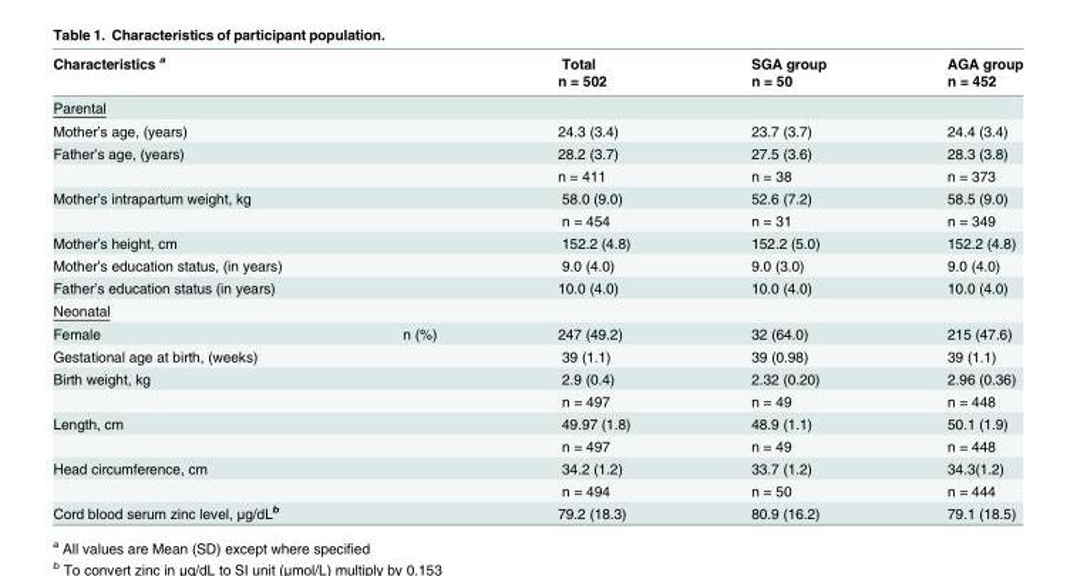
<table><thead><tr><td rowspan="2">Characteristics <sup>a</sup></td><td rowspan="2"></td><td rowspan="2">Total n = 502</td><td rowspan="2">SGA group n = 50</td><td rowspan="2">AGA group n = 452</td></tr><tr></tr></thead><tbody><tr><td colspan="5">Parental</td></tr><tr><td>Mother’s age, (years)</td><td></td><td>24.3 (3.4)</td><td>23.7 (3.7)</td><td>24.4 (3.4)</td></tr><tr><td rowspan="2">Father’s age, (years)</td><td></td><td>28.2 (3.7)</td><td>27.5 (3.6)</td><td>28.3 (3.8)</td></tr><tr><td></td><td>n = 411</td><td>n = 38</td><td>n = 373</td></tr><tr><td rowspan="2">Mother’s intrapartum weight, kg</td><td></td><td>58.0 (9.0)</td><td>52.6 (7.2)</td><td>58.5 (9.0)</td></tr><tr><td></td><td>n = 454</td><td>n = 31</td><td>n = 349</td></tr><tr><td>Mother’s height, cm</td><td></td><td>152.2 (4.8)</td><td>152.2 (5.0)</td><td>152.2 (4.8)</td></tr><tr><td>Mother’s education status, (in years)</td><td></td><td>9.0 (4.0)</td><td>9.0 (3.0)</td><td>9.0 (4.0)</td></tr><tr><td>Father’s education status (in years)</td><td></td><td>10.0 (4.0)</td><td>10.0 (4.0)</td><td>10.0 (4.0)</td></tr><tr><td colspan="5">Neonatal</td></tr><tr><td>Female</td><td>n (%)</td><td>247 (49.2)</td><td>32 (64.0)</td><td>215 (47.6)</td></tr><tr><td>Gestational age at birth, (weeks)</td><td></td><td>39 (1.1)</td><td>39 (0.98)</td><td>39 (1.1)</td></tr><tr><td rowspan="2">Birth weight, kg</td><td></td><td>2.9 (0.4)</td><td>2.32 (0.20)</td><td>2.96 (0.36)</td></tr><tr><td></td><td>n = 497</td><td>n = 49</td><td>n = 448</td></tr><tr><td rowspan="2">Length, cm</td><td></td><td>49.97 (1.8)</td><td>48.9 (1.1)</td><td>50.1 (1.9)</td></tr><tr><td></td><td>n = 497</td><td>n = 49</td><td>n = 448</td></tr><tr><td rowspan="2">Head circumference, cm</td><td></td><td>34.2 (1.2)</td><td>33.7 (1.2)</td><td>34.3(1.2)</td></tr><tr><td></td><td>n = 494</td><td>n = 50</td><td>n = 444</td></tr><tr><td>Cord blood serum zinc level, μg/dL<sup>b</sup></td><td></td><td>79.2 (18.3)</td><td>80.9 (16.2)</td><td>79.1 (18.5)</td></tr></tbody></table>